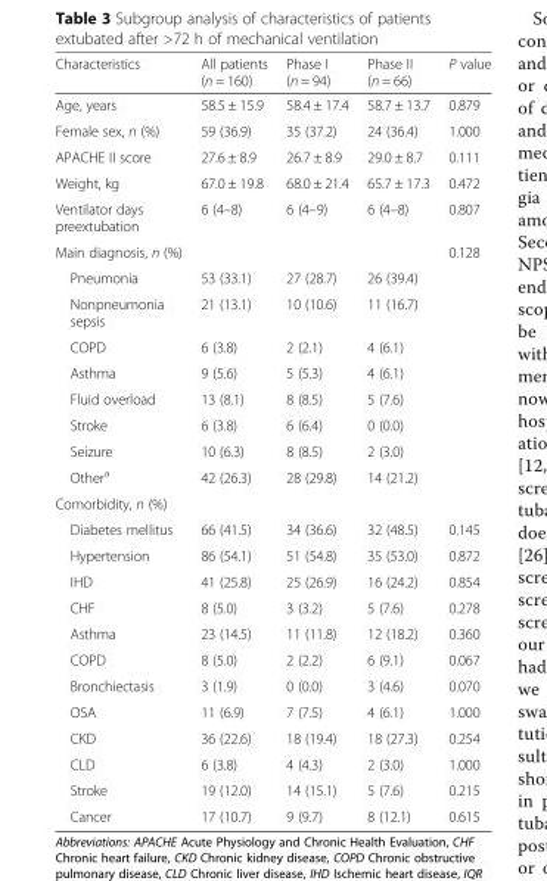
<table><thead><tr><td>Characteristics</td><td>All patients (n = 160)</td><td>Phase I (n = 94)</td><td>Phase II (n = 66)</td><td>P value</td></tr></thead><tbody><tr><td>Age, years</td><td>58.5 ± 15.9</td><td>58.4 ± 17.4</td><td>58.7 ± 13.7</td><td>0.879</td></tr><tr><td>Female sex, n (%)</td><td>59 (36.9)</td><td>35 (37.2)</td><td>24 (36.4)</td><td>1.000</td></tr><tr><td>APACHE II score</td><td>27.6 ± 8.9</td><td>26.7 ± 8.9</td><td>29.0 ± 8.7</td><td>0.111</td></tr><tr><td>Weight, kg</td><td>67.0 ± 19.8</td><td>68.0 ± 21.4</td><td>65.7 ± 17.3</td><td>0.472</td></tr><tr><td>Ventilator days preextubation</td><td>6 (4–8)</td><td>6 (4–9)</td><td>6 (4–8)</td><td>0.807</td></tr><tr><td>Main diagnosis, n (%)</td><td></td><td></td><td></td><td>0.128</td></tr><tr><td>Pneumonia</td><td>53 (33.1)</td><td>27 (28.7)</td><td>26 (39.4)</td><td rowspan="8"></td></tr><tr><td>Nonpneumonia sepsis</td><td>21 (13.1)</td><td>10 (10.6)</td><td>11 (16.7)</td></tr><tr><td>COPD</td><td>6 (3.8)</td><td>2 (2.1)</td><td>4 (6.1)</td></tr><tr><td>Asthma</td><td>9 (5.6)</td><td>5 (5.3)</td><td>4 (6.1)</td></tr><tr><td>Fluid overload</td><td>13 (8.1)</td><td>8 (8.5)</td><td>5 (7.6)</td></tr><tr><td>Stroke</td><td>6 (3.8)</td><td>6 (6.4)</td><td>0 (0.0)</td></tr><tr><td>Seizure</td><td>10 (6.3)</td><td>8 (8.5)</td><td>2 (3.0)</td></tr><tr><td>Other<sup>a</sup></td><td>42 (26.3)</td><td>28 (29.8)</td><td>14 (21.2)</td></tr><tr><td colspan="5">Comorbidity, n (%)</td></tr><tr><td>Diabetes mellitus</td><td>66 (41.5)</td><td>34 (36.6)</td><td>32 (48.5)</td><td>0.145</td></tr><tr><td>Hypertension</td><td>86 (54.1)</td><td>51 (54.8)</td><td>35 (53.0)</td><td>0.872</td></tr><tr><td>IHD</td><td>41 (25.8)</td><td>25 (26.9)</td><td>16 (24.2)</td><td>0.854</td></tr><tr><td>CHF</td><td>8 (5.0)</td><td>3 (3.2)</td><td>5 (7.6)</td><td>0.278</td></tr><tr><td>Asthma</td><td>23 (14.5)</td><td>11 (11.8)</td><td>12 (18.2)</td><td>0.360</td></tr><tr><td>COPD</td><td>8 (5.0)</td><td>2 (2.2)</td><td>6 (9.1)</td><td>0.067</td></tr><tr><td>Bronchiectasis</td><td>3 (1.9)</td><td>0 (0.0)</td><td>3 (4.6)</td><td>0.070</td></tr><tr><td>OSA</td><td>11 (6.9)</td><td>7 (7.5)</td><td>4 (6.1)</td><td>1.000</td></tr><tr><td>CKD</td><td>36 (22.6)</td><td>18 (19.4)</td><td>18 (27.3)</td><td>0.254</td></tr><tr><td>CLD</td><td>6 (3.8)</td><td>4 (4.3)</td><td>2 (3.0)</td><td>1.000</td></tr><tr><td>Stroke</td><td>19 (12.0)</td><td>14 (15.1)</td><td>5 (7.6)</td><td>0.215</td></tr><tr><td>Cancer</td><td>17 (10.7)</td><td>9 (9.7)</td><td>8 (12.1)</td><td>0.615</td></tr></tbody></table>